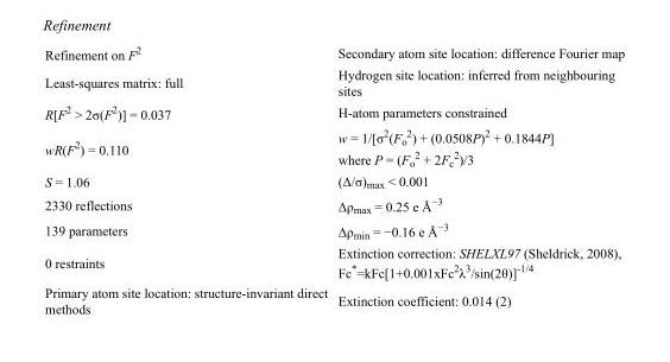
<table><tbody><tr><td>Refinement on F<sup>2</sup></td><td>Secondary atom site location: difference Fourier map</td></tr><tr><td>Least-squares matrix: full</td><td>Hydrogen site location: inferred from neighbouring sites</td></tr><tr><td>R[F<sup>2</sup> &gt; 2σ(F<sup>2</sup>)] = 0.037</td><td>H-atom parameters constrained</td></tr><tr><td>wR(F<sup>2</sup>) = 0.110</td><td>w = 1/[σ<sup>2</sup>(F<sub>o</sub> <sup>2</sup>) + (0.0508P)<sup>2</sup> + 0.1844P] where P = (F<sub>o</sub> <sup>2</sup> + 2F<sub>c</sub> <sup>2</sup>)/3</td></tr><tr><td>S = 1.06</td><td>(Δ/σ)<sub>max</sub> &lt; 0.001</td></tr><tr><td>2330 reflections</td><td>Δρ<sub>max</sub> = 0.25 e Å<sup>−3</sup></td></tr><tr><td>139 parameters</td><td>Δρ<sub>min</sub> = −0.16 e Å<sup>−3</sup></td></tr><tr><td>0 restraints</td><td>Extinction correction: SHELXL97 (Sheldrick, 2008), Fc*=kFc[1+0.001xFc<sup>2</sup>λ<sup>3</sup>/sin(2θ)]<sup>-1/4</sup></td></tr><tr><td>Primary atom site location: structure-invariant direct methods</td><td>Extinction coefficient: 0.014 (2)</td></tr></tbody></table>